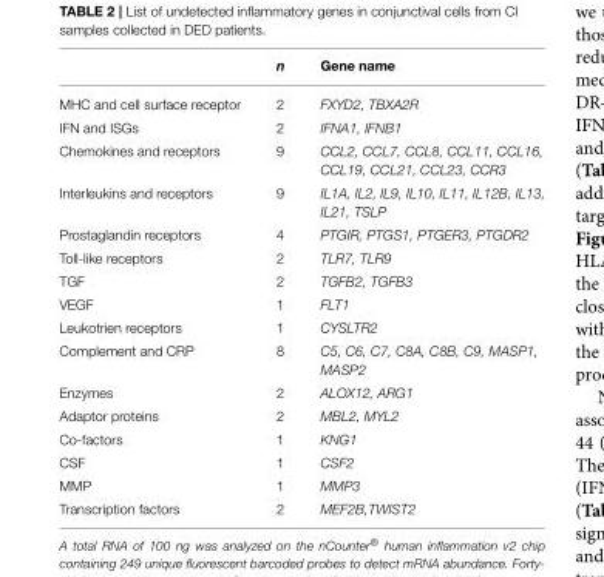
<table><thead><tr><td></td><td>n</td><td>Gene name</td></tr></thead><tbody><tr><td>MHC and cell surface receptor</td><td>2</td><td>FXYD2, TBXA2R</td></tr><tr><td>IFN and ISGs</td><td>2</td><td>IFNA1, IFNB1</td></tr><tr><td>Chemokines and receptors</td><td>9</td><td>CCL2, CCL7, CCL8, CCL11, CCL16, CCL19, CCL21, CCL23, CCR3</td></tr><tr><td>Interleukins and receptors</td><td>9</td><td>IL1A, IL2, IL9, IL10, IL11, IL12B, IL13, IL21, TSLP</td></tr><tr><td>Prostaglandin receptors</td><td>4</td><td>PTGIR, PTGS1, PTGER3, PTGDR2</td></tr><tr><td>Toll-like receptors</td><td>2</td><td>TLR7, TLR9</td></tr><tr><td>TGF</td><td>2</td><td>TGFB2, TGFB3</td></tr><tr><td>VEGF</td><td>1</td><td>FLT1</td></tr><tr><td>Leukotrien receptors</td><td>1</td><td>CYSLTR2</td></tr><tr><td>Complement and CRP</td><td>8</td><td>C5, C6, C7, C8A, C8B, C9, MASP1, MASP2</td></tr><tr><td>Enzymes</td><td>2</td><td>ALOX12, ARG1</td></tr><tr><td>Adaptor proteins</td><td>2</td><td>MBL2, MYL2</td></tr><tr><td>Co-factors</td><td>1</td><td>KNG1</td></tr><tr><td>CSF</td><td>1</td><td>CSF2</td></tr><tr><td>MMP</td><td>1</td><td>MMP3</td></tr><tr><td>Transcription factors</td><td>2</td><td>MEF2B,TWIST2</td></tr></tbody></table>